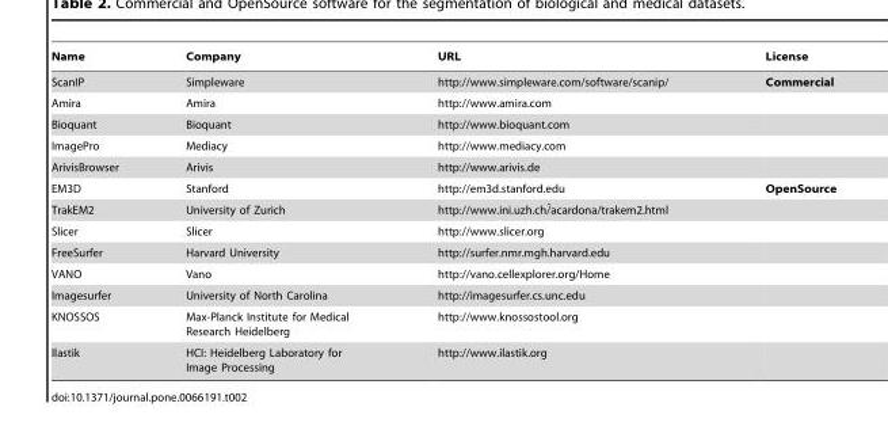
<table><thead><tr><td>Name</td><td>Company</td><td>URL</td><td>License</td></tr></thead><tbody><tr><td>ScanIP</td><td>Simpleware</td><td>http://www.simpleware.com/software/scanip/</td><td>Commercial</td></tr><tr><td>Amira</td><td>Amira</td><td>http://www.amira.com</td><td></td></tr><tr><td>Bioquant</td><td>Bioquant</td><td>http://www.bioquant.com</td><td></td></tr><tr><td>ImagePro</td><td>Mediacy</td><td>http://www.mediacy.com</td><td></td></tr><tr><td>ArivisBrowser</td><td>Arivis</td><td>http://www.arivis.de</td><td></td></tr><tr><td>EM3D</td><td>Stanford</td><td>http://em3d.stanford.edu</td><td>OpenSource</td></tr><tr><td>TrakEM2</td><td>University of Zurich</td><td colspan="2">http://www.ini.uzh.ch/˜acardona/trakem2.html</td></tr><tr><td>Slicer</td><td>Slicer</td><td>http://www.slicer.org</td><td></td></tr><tr><td>FreeSurfer</td><td>Harvard University</td><td>http://surfer.nmr.mgh.harvard.edu</td><td></td></tr><tr><td>VANO</td><td>Vano</td><td>http://vano.cellexplorer.org/Home</td><td></td></tr><tr><td>Imagesurfer</td><td>University of North Carolina</td><td>http://imagesurfer.cs.unc.edu</td><td></td></tr><tr><td>KNOSSOS</td><td>Max-Planck Institute for Medical Research Heidelberg</td><td>http://www.knossostool.org</td><td></td></tr><tr><td>Ilastik</td><td>HCI: Heidelberg Laboratory for Image Processing</td><td>http://www.ilastik.org</td><td></td></tr></tbody></table>